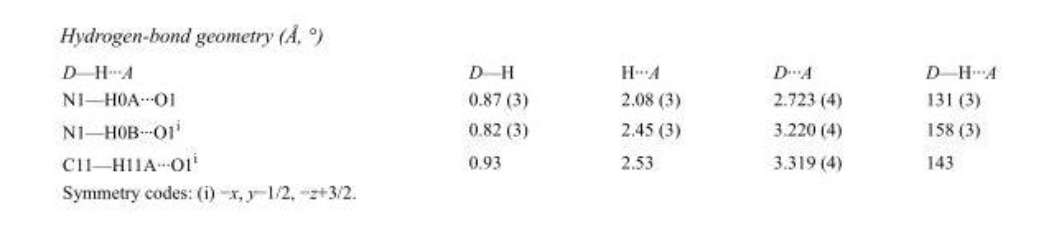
<table><tbody><tr><td>D—H···A</td><td>D—H</td><td>H···A</td><td>D···A</td><td>D—H···A</td></tr><tr><td>N1—H0A···O1</td><td>0.87 (3)</td><td>2.08 (3)</td><td>2.723 (4)</td><td>131 (3)</td></tr><tr><td>N1—H0B···O1<sup>i</sup></td><td>0.82 (3)</td><td>2.45 (3)</td><td>3.220 (4)</td><td>158 (3)</td></tr><tr><td>C11—H11A···O1<sup>i</sup></td><td>0.93</td><td>2.53</td><td>3.319 (4)</td><td>143</td></tr></tbody></table>